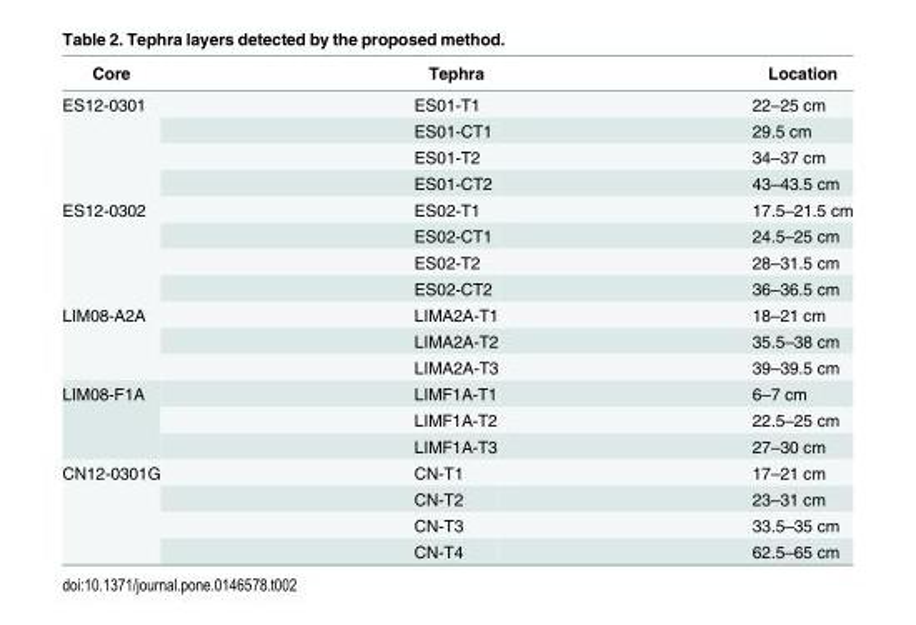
<table><thead><tr><td>Core</td><td>Tephra</td><td>Location</td></tr></thead><tbody><tr><td rowspan="4">ES12-0301</td><td>ES01-T1</td><td>22–25 cm</td></tr><tr><td>ES01-CT1</td><td>29.5 cm</td></tr><tr><td>ES01-T2</td><td>34–37 cm</td></tr><tr><td>ES01-CT2</td><td>43–43.5 cm</td></tr><tr><td rowspan="4">ES12-0302</td><td>ES02-T1</td><td>17.5–21.5 cm</td></tr><tr><td>ES02-CT1</td><td>24.5–25 cm</td></tr><tr><td>ES02-T2</td><td>28–31.5 cm</td></tr><tr><td>ES02-CT2</td><td>36–36.5 cm</td></tr><tr><td rowspan="3">LIM08-A2A</td><td>LIMA2A-T1</td><td>18–21 cm</td></tr><tr><td>LIMA2A-T2</td><td>35.5–38 cm</td></tr><tr><td>LIMA2A-T3</td><td>39–39.5 cm</td></tr><tr><td rowspan="3">LIM08-F1A</td><td>LIMF1A-T1</td><td>6–7 cm</td></tr><tr><td>LIMF1A-T2</td><td>22.5–25 cm</td></tr><tr><td>LIMF1A-T3</td><td>27–30 cm</td></tr><tr><td rowspan="4">CN12-0301G</td><td>CN-T1</td><td>17–21 cm</td></tr><tr><td>CN-T2</td><td>23–31 cm</td></tr><tr><td>CN-T3</td><td>33.5–35 cm</td></tr><tr><td>CN-T4</td><td>62.5–65 cm</td></tr></tbody></table>